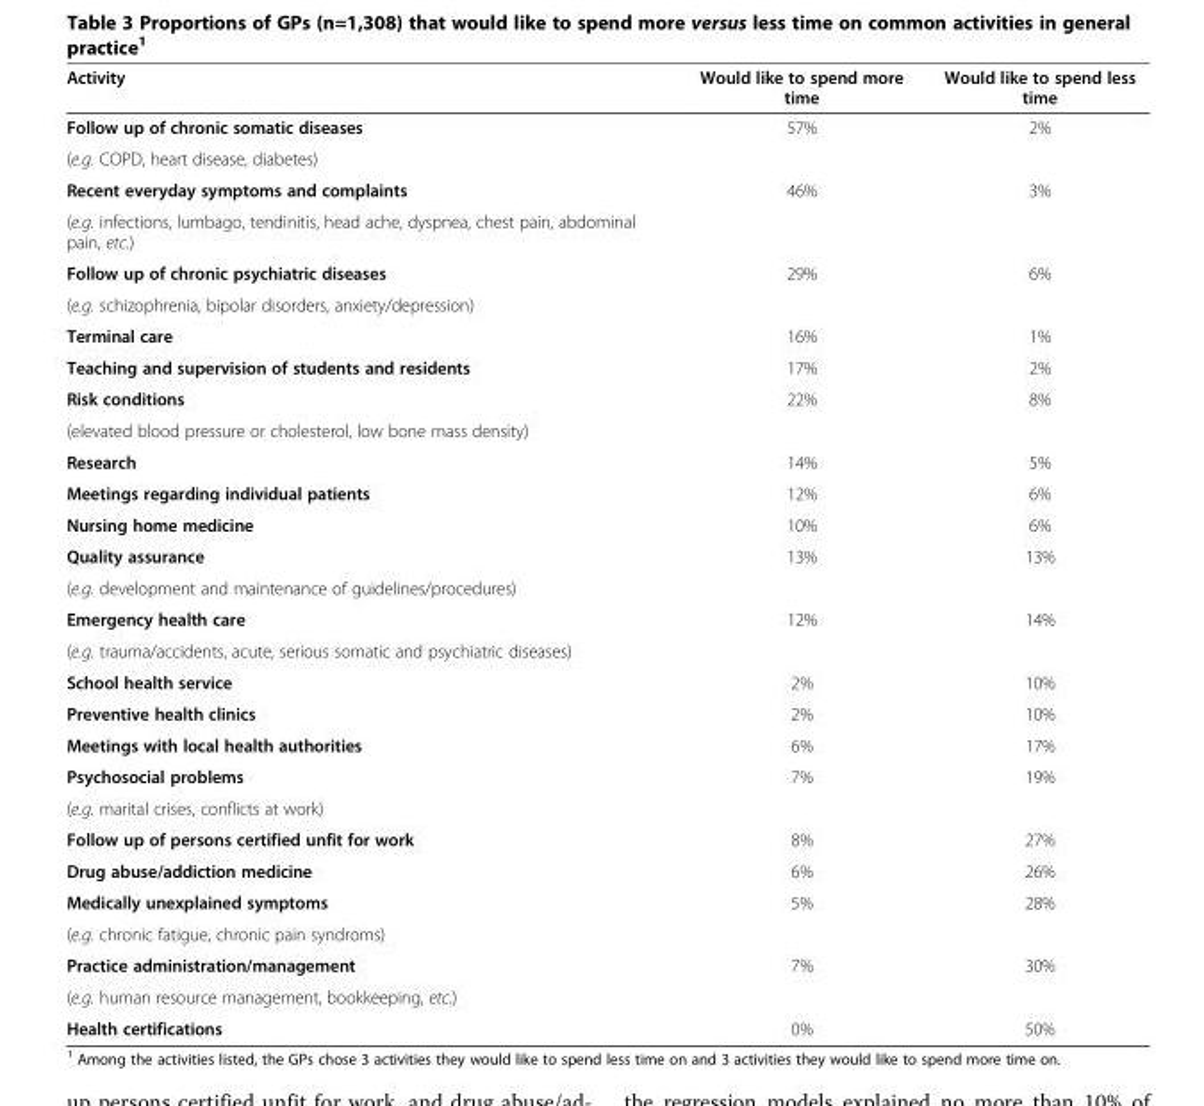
<table><thead><tr><td>Activity</td><td>Would like to spend more time</td><td>Would like to spend less time</td></tr></thead><tbody><tr><td>Follow up of chronic somatic diseases</td><td rowspan="2">57%</td><td rowspan="2">2%</td></tr><tr><td>(e.g. COPD, heart disease, diabetes)</td></tr><tr><td>Recent everyday symptoms and complaints</td><td rowspan="2">46%</td><td rowspan="2">3%</td></tr><tr><td>(e.g. infections, lumbago, tendinitis, head ache, dyspnea, chest pain, abdominal pain, etc.)</td></tr><tr><td>Follow up of chronic psychiatric diseases</td><td rowspan="2">29%</td><td rowspan="2">6%</td></tr><tr><td>(e.g. schizophrenia, bipolar disorders, anxiety/depression)</td></tr><tr><td>Terminal care</td><td>16%</td><td>1%</td></tr><tr><td>Teaching and supervision of students and residents</td><td>17%</td><td>2%</td></tr><tr><td>Risk conditions</td><td rowspan="2">22%</td><td rowspan="2">8%</td></tr><tr><td>(elevated blood pressure or cholesterol, low bone mass density)</td></tr><tr><td>Research</td><td>14%</td><td>5%</td></tr><tr><td>Meetings regarding individual patients</td><td>12%</td><td>6%</td></tr><tr><td>Nursing home medicine</td><td>10%</td><td>6%</td></tr><tr><td>Quality assurance</td><td rowspan="2">13%</td><td rowspan="2">13%</td></tr><tr><td>(e.g. development and maintenance of guidelines/procedures)</td></tr><tr><td>Emergency health care</td><td rowspan="2">12%</td><td rowspan="2">14%</td></tr><tr><td>(e.g. trauma/accidents, acute, serious somatic and psychiatric diseases)</td></tr><tr><td>School health service</td><td>2%</td><td>10%</td></tr><tr><td>Preventive health clinics</td><td>2%</td><td>10%</td></tr><tr><td>Meetings with local health authorities</td><td>6%</td><td>17%</td></tr><tr><td>Psychosocial problems</td><td rowspan="2">7%</td><td rowspan="2">19%</td></tr><tr><td>(e.g. marital crises, conflicts at work)</td></tr><tr><td>Follow up of persons certified unfit for work</td><td>8%</td><td>27%</td></tr><tr><td>Drug abuse/addiction medicine</td><td>6%</td><td>26%</td></tr><tr><td>Medically unexplained symptoms</td><td rowspan="2">5%</td><td rowspan="2">28%</td></tr><tr><td>(e.g. chronic fatigue, chronic pain syndroms)</td></tr><tr><td>Practice administration/management</td><td rowspan="2">7%</td><td rowspan="2">30%</td></tr><tr><td>(e.g. human resource management, bookkeeping, etc.)</td></tr><tr><td>Health certifications</td><td>0%</td><td>50%</td></tr></tbody></table>